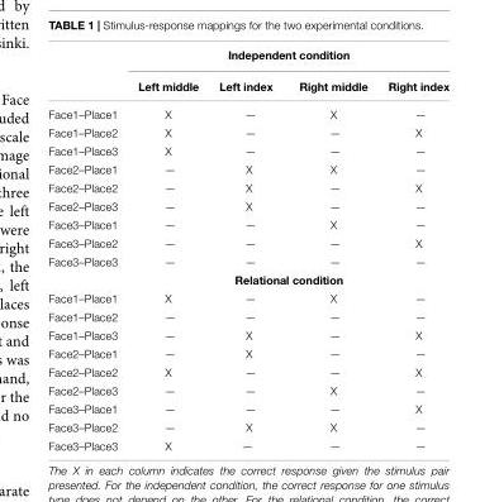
<table><thead><tr><td rowspan="2"></td><td colspan="4">Independent condition</td></tr><tr><td>Left middle</td><td>Left index</td><td>Right middle</td><td>Right index</td></tr></thead><tbody><tr><td>Face1–Place1</td><td>X</td><td>—</td><td>X</td><td>—</td></tr><tr><td>Face1–Place2</td><td>X</td><td>—</td><td>—</td><td>X</td></tr><tr><td>Face1–Place3</td><td>X</td><td>—</td><td>—</td><td>—</td></tr><tr><td>Face2–Place1</td><td>—</td><td>X</td><td>X</td><td>—</td></tr><tr><td>Face2–Place2</td><td>—</td><td>X</td><td>—</td><td>X</td></tr><tr><td>Face2–Place3</td><td>—</td><td>X</td><td>—</td><td>—</td></tr><tr><td>Face3–Place1</td><td>—</td><td>—</td><td>X</td><td>—</td></tr><tr><td>Face3–Place2</td><td>—</td><td>—</td><td>—</td><td>X</td></tr><tr><td rowspan="2">Face3–Place3</td><td>—</td><td>—</td><td>—</td><td>—</td></tr><tr><td colspan="4">Relational condition</td></tr><tr><td>Face1–Place1</td><td>X</td><td>—</td><td>X</td><td>—</td></tr><tr><td>Face1–Place2</td><td>—</td><td>—</td><td>—</td><td>—</td></tr><tr><td>Face1–Place3</td><td>—</td><td>X</td><td>—</td><td>X</td></tr><tr><td>Face2–Place1</td><td>—</td><td>X</td><td>—</td><td>—</td></tr><tr><td>Face2–Place2</td><td>X</td><td>—</td><td>—</td><td>X</td></tr><tr><td>Face2–Place3</td><td>—</td><td>—</td><td>X</td><td>—</td></tr><tr><td>Face3–Place1</td><td>—</td><td>—</td><td>—</td><td>X</td></tr><tr><td>Face3–Place2</td><td>—</td><td>X</td><td>X</td><td>—</td></tr><tr><td>Face3–Place3</td><td>X</td><td>—</td><td>—</td><td>—</td></tr></tbody></table>